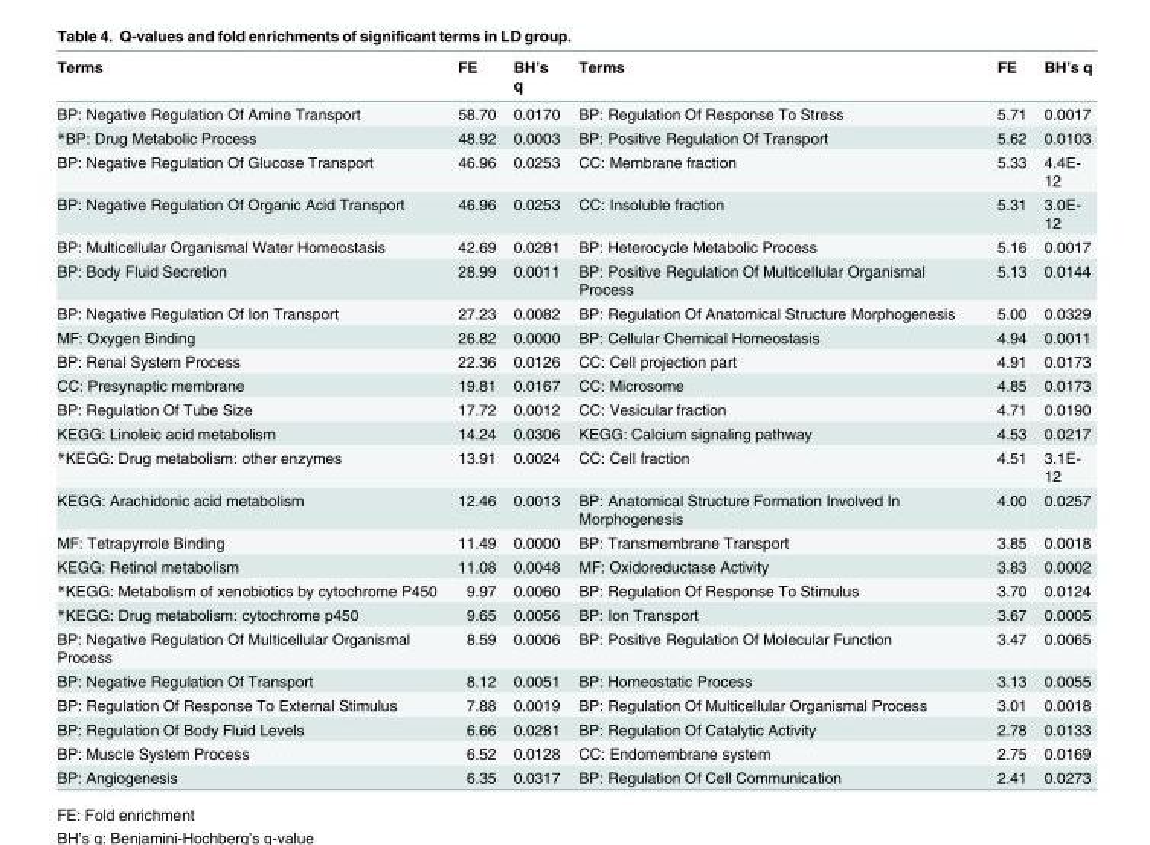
<table><thead><tr><td>Terms</td><td>FE</td><td>BH’s q</td><td>Terms</td><td>FE</td><td>BH’s q</td></tr></thead><tbody><tr><td>BP: Negative Regulation Of Amine Transport</td><td>58.70</td><td>0.0170</td><td>BP: Regulation Of Response To Stress</td><td>5.71</td><td>0.0017</td></tr><tr><td>*BP: Drug Metabolic Process</td><td>48.92</td><td>0.0003</td><td>BP: Positive Regulation Of Transport</td><td>5.62</td><td>0.0103</td></tr><tr><td>BP: Negative Regulation Of Glucose Transport</td><td>46.96</td><td>0.0253</td><td>CC: Membrane fraction</td><td>5.33</td><td>4.4E- 12</td></tr><tr><td>BP: Negative Regulation Of Organic Acid Transport</td><td>46.96</td><td>0.0253</td><td>CC: Insoluble fraction</td><td>5.31</td><td>3.0E- 12</td></tr><tr><td>BP: Multicellular Organismal Water Homeostasis</td><td>42.69</td><td>0.0281</td><td>BP: Heterocycle Metabolic Process</td><td>5.16</td><td>0.0017</td></tr><tr><td>BP: Body Fluid Secretion</td><td>28.99</td><td>0.0011</td><td>BP: Positive Regulation Of Multicellular Organismal Process</td><td>5.13</td><td>0.0144</td></tr><tr><td>BP: Negative Regulation Of Ion Transport</td><td>27.23</td><td>0.0082</td><td>BP: Regulation Of Anatomical Structure Morphogenesis</td><td>5.00</td><td>0.0329</td></tr><tr><td>MF: Oxygen Binding</td><td>26.82</td><td>0.0000</td><td>BP: Cellular Chemical Homeostasis</td><td>4.94</td><td>0.0011</td></tr><tr><td>BP: Renal System Process</td><td>22.36</td><td>0.0126</td><td>CC: Cell projection part</td><td>4.91</td><td>0.0173</td></tr><tr><td>CC: Presynaptic membrane</td><td>19.81</td><td>0.0167</td><td>CC: Microsome</td><td>4.85</td><td>0.0173</td></tr><tr><td>BP: Regulation Of Tube Size</td><td>17.72</td><td>0.0012</td><td>CC: Vesicular fraction</td><td>4.71</td><td>0.0190</td></tr><tr><td>KEGG: Linoleic acid metabolism</td><td>14.24</td><td>0.0306</td><td>KEGG: Calcium signaling pathway</td><td>4.53</td><td>0.0217</td></tr><tr><td>*KEGG: Drug metabolism: other enzymes</td><td>13.91</td><td>0.0024</td><td>CC: Cell fraction</td><td>4.51</td><td>3.1E- 12</td></tr><tr><td>KEGG: Arachidonic acid metabolism</td><td>12.46</td><td>0.0013</td><td>BP: Anatomical Structure Formation Involved In Morphogenesis</td><td>4.00</td><td>0.0257</td></tr><tr><td>MF: Tetrapyrrole Binding</td><td>11.49</td><td>0.0000</td><td>BP: Transmembrane Transport</td><td>3.85</td><td>0.0018</td></tr><tr><td>KEGG: Retinol metabolism</td><td>11.08</td><td>0.0048</td><td>MF: Oxidoreductase Activity</td><td>3.83</td><td>0.0002</td></tr><tr><td>*KEGG: Metabolism of xenobiotics by cytochrome P450</td><td>9.97</td><td>0.0060</td><td>BP: Regulation Of Response To Stimulus</td><td>3.70</td><td>0.0124</td></tr><tr><td>*KEGG: Drug metabolism: cytochrome p450</td><td>9.65</td><td>0.0056</td><td>BP: Ion Transport</td><td>3.67</td><td>0.0005</td></tr><tr><td>BP: Negative Regulation Of Multicellular Organismal Process</td><td>8.59</td><td>0.0006</td><td>BP: Positive Regulation Of Molecular Function</td><td>3.47</td><td>0.0065</td></tr><tr><td>BP: Negative Regulation Of Transport</td><td>8.12</td><td>0.0051</td><td>BP: Homeostatic Process</td><td>3.13</td><td>0.0055</td></tr><tr><td>BP: Regulation Of Response To External Stimulus</td><td>7.88</td><td>0.0019</td><td>BP: Regulation Of Multicellular Organismal Process</td><td>3.01</td><td>0.0018</td></tr><tr><td>BP: Regulation Of Body Fluid Levels</td><td>6.66</td><td>0.0281</td><td>BP: Regulation Of Catalytic Activity</td><td>2.78</td><td>0.0133</td></tr><tr><td>BP: Muscle System Process</td><td>6.52</td><td>0.0128</td><td>CC: Endomembrane system</td><td>2.75</td><td>0.0169</td></tr><tr><td>BP: Angiogenesis</td><td>6.35</td><td>0.0317</td><td>BP: Regulation Of Cell Communication</td><td>2.41</td><td>0.0273</td></tr></tbody></table>